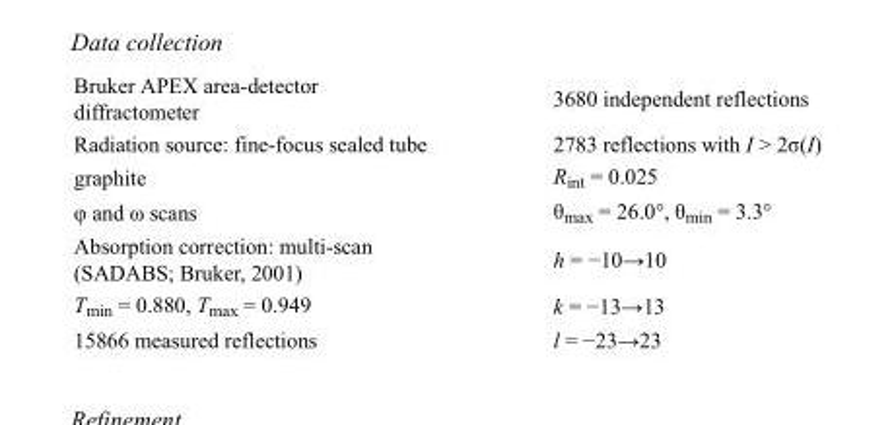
<table><tbody><tr><td>Bruker APEX area-detector diffractometer</td><td>3680 independent reflections</td></tr><tr><td>Radiation source: fine-focus sealed tube</td><td>2783 reflections with I &gt; 2σ(I)</td></tr><tr><td>graphite</td><td>R<sub>int</sub> = 0.025</td></tr><tr><td>φ and ω scans</td><td>θ<sub>max</sub> = 26.0°, θ<sub>min</sub> = 3.3°</td></tr><tr><td>Absorption correction: multi-scan (SADABS; Bruker, 2001)</td><td>h = −10→10</td></tr><tr><td>T<sub>min</sub> = 0.880, T<sub>max</sub> = 0.949</td><td>k = −13→13</td></tr><tr><td>15866 measured reflections</td><td>l = −23→23</td></tr></tbody></table>